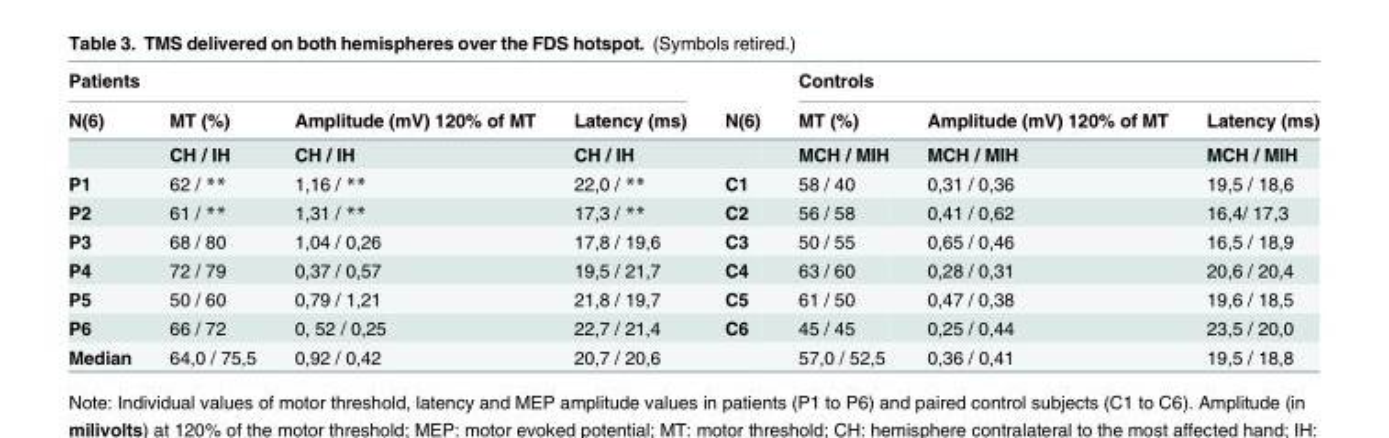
<table><thead><tr><td colspan="4">Patients</td><td rowspan="2">N(6)</td><td colspan="3">Controls</td></tr><tr><td>N(6)</td><td>MT (%)</td><td>Amplitude (mV) 120% of MT</td><td>Latency (ms)</td><td>MT (%)</td><td>Amplitude (mV) 120% of MT</td><td>Latency (ms)</td></tr></thead><tbody><tr><td></td><td>CH / IH</td><td>CH / IH</td><td>CH / IH</td><td></td><td>MCH / MIH</td><td>MCH / MIH</td><td>MCH / MIH</td></tr><tr><td>P1</td><td>62 / **</td><td>1,16 / **</td><td>22,0 / **</td><td>C1</td><td>58 / 40</td><td>0,31 / 0,36</td><td>19,5 / 18,6</td></tr><tr><td>P2</td><td>61 / **</td><td>1,31 / **</td><td>17,3 / **</td><td>C2</td><td>56 / 58</td><td>0,41 / 0,62</td><td>16,4/ 17,3</td></tr><tr><td>P3</td><td>68 / 80</td><td>1,04 / 0,26</td><td>17,8 / 19,6</td><td>C3</td><td>50 / 55</td><td>0,65 / 0,46</td><td>16,5 / 18,9</td></tr><tr><td>P4</td><td>72 / 79</td><td>0,37 / 0,57</td><td>19,5 / 21,7</td><td>C4</td><td>63 / 60</td><td>0,28 / 0,31</td><td>20,6 / 20,4</td></tr><tr><td>P5</td><td>50 / 60</td><td>0,79 / 1,21</td><td>21,8 / 19,7</td><td>C5</td><td>61 / 50</td><td>0,47 / 0,38</td><td>19,6 / 18,5</td></tr><tr><td>P6</td><td>66 / 72</td><td>0, 52 / 0,25</td><td>22,7 / 21,4</td><td>C6</td><td>45 / 45</td><td>0,25 / 0,44</td><td>23,5 / 20,0</td></tr><tr><td>Median</td><td>64,0 / 75,5</td><td>0,92 / 0,42</td><td>20,7 / 20,6</td><td></td><td>57,0 / 52,5</td><td>0,36 / 0,41</td><td>19,5 / 18,8</td></tr></tbody></table>